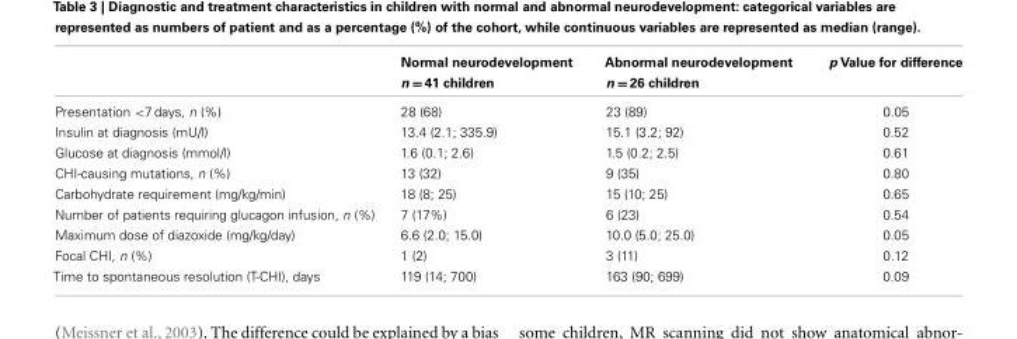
<table><thead><tr><td></td><td>Normal neurodevelopment n = 41 children</td><td>Abnormal neurodevelopment n = 26 children</td><td>p Value for difference</td></tr></thead><tbody><tr><td>Presentation &lt;7 days, n (%)</td><td>28 (68)</td><td>23 (89)</td><td>0.05</td></tr><tr><td>Insulin at diagnosis (mU/l)</td><td>13.4 (2.1; 335.9)</td><td>15.1 (3.2; 92)</td><td>0.52</td></tr><tr><td>Glucose at diagnosis (mmol/l)</td><td>1.6 (0.1; 2.6)</td><td>1.5 (0.2; 2.5)</td><td>0.61</td></tr><tr><td>CHI-causing mutations, n (%)</td><td>13 (32)</td><td>9 (35)</td><td>0.80</td></tr><tr><td>Carbohydrate requirement (mg/kg/min)</td><td>18 (8; 25)</td><td>15 (10; 25)</td><td>0.65</td></tr><tr><td>Number of patients requiring glucagon infusion, n (%)</td><td>7 (17%)</td><td>6 (23)</td><td>0.54</td></tr><tr><td>Maximum dose of diazoxide (mg/kg/day)</td><td>6.6 (2.0; 15.0)</td><td>10.0 (5.0; 25.0)</td><td>0.05</td></tr><tr><td>Focal CHI, n (%)</td><td>1 (2)</td><td>3 (11)</td><td>0.12</td></tr><tr><td>Time to spontaneous resolution (T-CHI), days</td><td>119 (14; 700)</td><td>163 (90; 699)</td><td>0.09</td></tr></tbody></table>